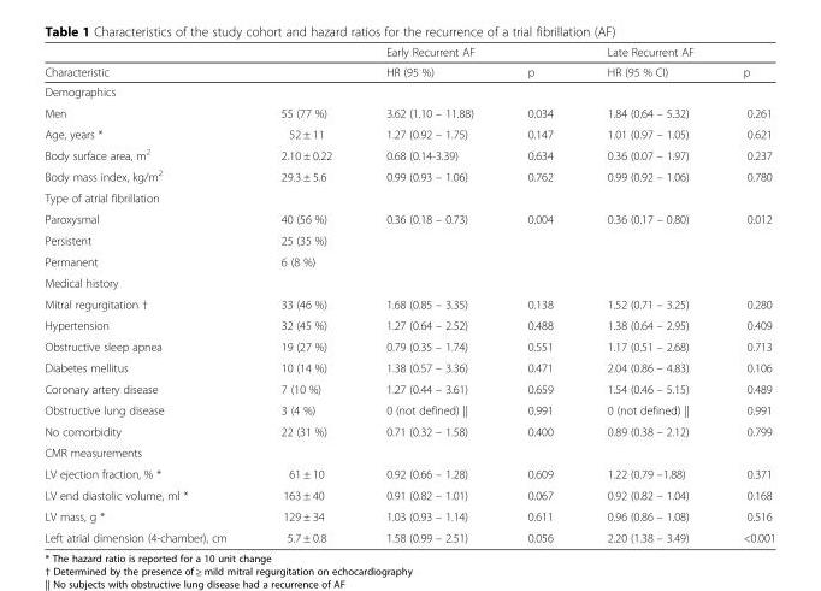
<table><thead><tr><td rowspan="2">Characteristic</td><td rowspan="2"></td><td colspan="2">Early Recurrent AF</td><td colspan="2">Late Recurrent AF</td></tr><tr><td>HR (95 %)</td><td>p</td><td>HR (95 % CI)</td><td>p</td></tr></thead><tbody><tr><td colspan="6">Demographics</td></tr><tr><td>Men</td><td>55 (77 %)</td><td>3.62 (1.10 – 11.88)</td><td>0.034</td><td>1.84 (0.64 – 5.32)</td><td>0.261</td></tr><tr><td>Age, years *</td><td>52 ± 11</td><td>1.27 (0.92 – 1.75)</td><td>0.147</td><td>1.01 (0.97 – 1.05)</td><td>0.621</td></tr><tr><td>Body surface area, m<sup>2</sup></td><td>2.10 ± 0.22</td><td>0.68 (0.14-3.39)</td><td>0.634</td><td>0.36 (0.07 – 1.97)</td><td>0.237</td></tr><tr><td>Body mass index, kg/m<sup>2</sup></td><td>29.3 ± 5.6</td><td>0.99 (0.93 – 1.06)</td><td>0.762</td><td>0.99 (0.92 – 1.06)</td><td>0.780</td></tr><tr><td colspan="6">Type of atrial fibrillation</td></tr><tr><td>Paroxysmal</td><td>40 (56 %)</td><td>0.36 (0.18 – 0.73)</td><td>0.004</td><td>0.36 (0.17 – 0.80)</td><td>0.012</td></tr><tr><td>Persistent</td><td>25 (35 %)</td><td></td><td></td><td></td><td></td></tr><tr><td>Permanent</td><td>6 (8 %)</td><td></td><td></td><td></td><td></td></tr><tr><td colspan="6">Medical history</td></tr><tr><td>Mitral regurgitation †</td><td>33 (46 %)</td><td>1.68 (0.85 – 3.35)</td><td>0.138</td><td>1.52 (0.71 – 3.25)</td><td>0.280</td></tr><tr><td>Hypertension</td><td>32 (45 %)</td><td>1.27 (0.64 – 2.52)</td><td>0.488</td><td>1.38 (0.64 – 2.95)</td><td>0.409</td></tr><tr><td>Obstructive sleep apnea</td><td>19 (27 %)</td><td>0.79 (0.35 – 1.74)</td><td>0.551</td><td>1.17 (0.51 – 2.68)</td><td>0.713</td></tr><tr><td>Diabetes mellitus</td><td>10 (14 %)</td><td>1.38 (0.57 – 3.36)</td><td>0.471</td><td>2.04 (0.86 – 4.83)</td><td>0.106</td></tr><tr><td>Coronary artery disease</td><td>7 (10 %)</td><td>1.27 (0.44 – 3.61)</td><td>0.659</td><td>1.54 (0.46 – 5.15)</td><td>0.489</td></tr><tr><td>Obstructive lung disease</td><td>3 (4 %)</td><td>0 (not defined) ||</td><td>0.991</td><td>0 (not defined) ||</td><td>0.991</td></tr><tr><td>No comorbidity</td><td>22 (31 %)</td><td>0.71 (0.32 – 1.58)</td><td>0.400</td><td>0.89 (0.38 – 2.12)</td><td>0.799</td></tr><tr><td colspan="6">CMR measurements</td></tr><tr><td>LV ejection fraction, % *</td><td>61 ± 10</td><td>0.92 (0.66 – 1.28)</td><td>0.609</td><td>1.22 (0.79 –1.88)</td><td>0.371</td></tr><tr><td>LV end diastolic volume, ml *</td><td>163 ± 40</td><td>0.91 (0.82 – 1.01)</td><td>0.067</td><td>0.92 (0.82 – 1.04)</td><td>0.168</td></tr><tr><td>LV mass, g *</td><td>129 ± 34</td><td>1.03 (0.93 – 1.14)</td><td>0.611</td><td>0.96 (0.86 – 1.08)</td><td>0.516</td></tr><tr><td>Left atrial dimension (4-chamber), cm</td><td>5.7 ± 0.8</td><td>1.58 (0.99 – 2.51)</td><td>0.056</td><td>2.20 (1.38 – 3.49)</td><td>&lt;0.001</td></tr></tbody></table>